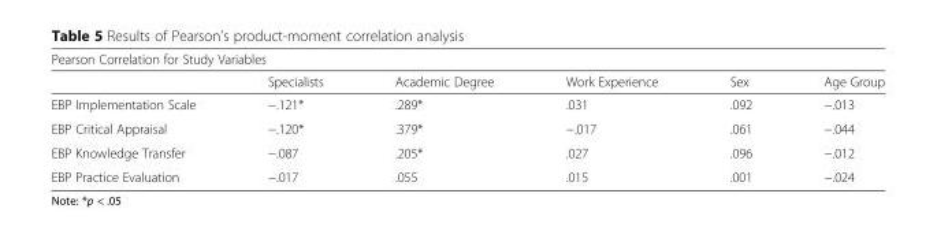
<table><thead><tr><td colspan="6">Pearson Correlation for Study Variables</td></tr><tr><td></td><td>Specialists</td><td>Academic Degree</td><td>Work Experience</td><td>Sex</td><td>Age Group</td></tr></thead><tbody><tr><td>EBP Implementation Scale</td><td>−.121*</td><td>.289*</td><td>.031</td><td>.092</td><td>−.013</td></tr><tr><td>EBP Critical Appraisal</td><td>−.120*</td><td>.379*</td><td>−.017</td><td>.061</td><td>−.044</td></tr><tr><td>EBP Knowledge Transfer</td><td>−.087</td><td>.205*</td><td>.027</td><td>.096</td><td>−.012</td></tr><tr><td>EBP Practice Evaluation</td><td>−.017</td><td>.055</td><td>.015</td><td>.001</td><td>−.024</td></tr></tbody></table>